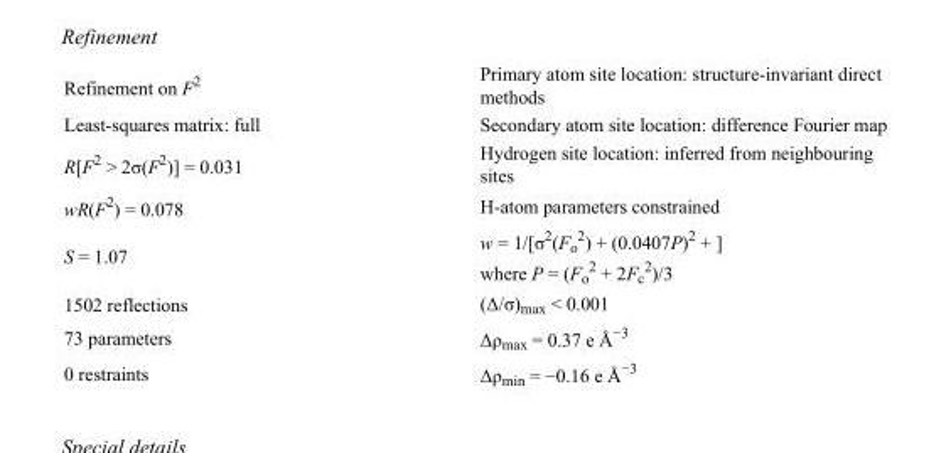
<table><tbody><tr><td>Refinement on F<sup>2</sup></td><td>Primary atom site location: structure-invariant direct methods</td></tr><tr><td>Least-squares matrix: full</td><td>Secondary atom site location: difference Fourier map</td></tr><tr><td>R[F<sup>2</sup> &gt; 2σ(F<sup>2</sup>)] = 0.031</td><td>Hydrogen site location: inferred from neighbouring sites</td></tr><tr><td>wR(F<sup>2</sup>) = 0.078</td><td>H-atom parameters constrained</td></tr><tr><td>S = 1.07</td><td>w = 1/[σ<sup>2</sup>(F<sub>o</sub> <sup>2</sup>) + (0.0407P)<sup>2</sup> + ] where P = (F<sub>o</sub> <sup>2</sup> + 2F<sub>c</sub> <sup>2</sup>)/3</td></tr><tr><td>1502 reflections</td><td>(Δ/σ)<sub>max</sub> &lt; 0.001</td></tr><tr><td>73 parameters</td><td>Δρ<sub>max</sub> = 0.37 e Å<sup>−3</sup></td></tr><tr><td>0 restraints</td><td>Δρ<sub>min</sub> = −0.16 e Å<sup>−3</sup></td></tr></tbody></table>